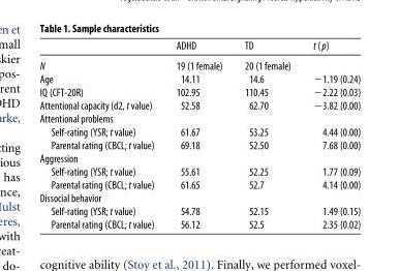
<table><thead><tr><td></td><td>ADHD</td><td>TD</td><td>t (p)</td></tr></thead><tbody><tr><td>N</td><td>19 (1 female)</td><td>20 (1 female)</td><td></td></tr><tr><td>Age</td><td>14.11</td><td>14.6</td><td>−1.19 (0.24)</td></tr><tr><td>IQ (CFT-20R)</td><td>102.95</td><td>110.45</td><td>−2.22 (0.03)</td></tr><tr><td>Attentional capacity (d2, t value)</td><td>52.58</td><td>62.70</td><td>−3.82 (0.00)</td></tr><tr><td colspan="4">Attentional problems</td></tr><tr><td>Self-rating (YSR; t value)</td><td>61.67</td><td>53.25</td><td>4.44 (0.00)</td></tr><tr><td>Parental rating (CBCL; t value)</td><td>69.18</td><td>52.50</td><td>7.68 (0.00)</td></tr><tr><td colspan="4">Aggression</td></tr><tr><td>Self-rating (YSR; t value)</td><td>55.61</td><td>52.25</td><td>1.77 (0.09)</td></tr><tr><td>Parental rating (CBCL; t value)</td><td>61.65</td><td>52.7</td><td>4.14 (0.00)</td></tr><tr><td colspan="4">Dissocial behavior</td></tr><tr><td>Self-rating (YSR; t value)</td><td>54.78</td><td>52.15</td><td>1.49 (0.15)</td></tr><tr><td>Parental rating (CBCL; t value)</td><td>56.12</td><td>52.5</td><td>2.35 (0.02)</td></tr></tbody></table>